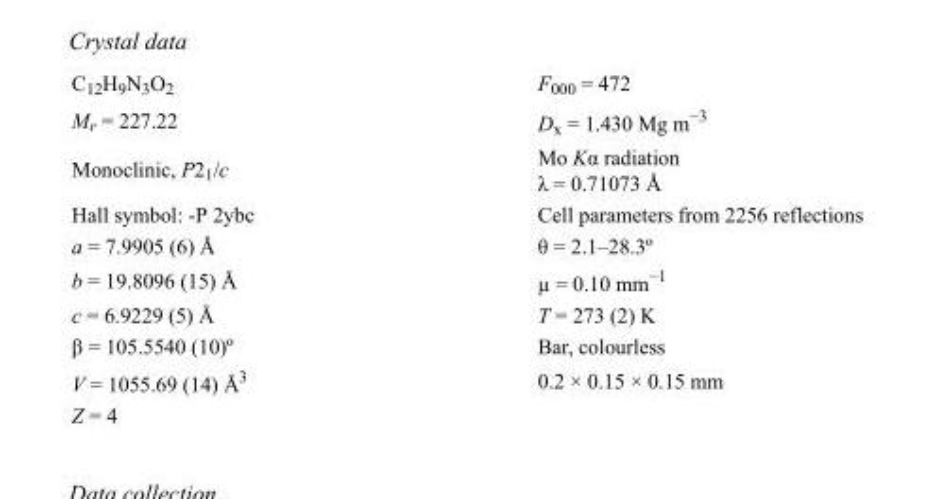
<table><tbody><tr><td>C<sub>12</sub>H<sub>9</sub>N<sub>3</sub>O<sub>2</sub></td><td>F<sub>000</sub> = 472</td></tr><tr><td>M<sub>r</sub> = 227.22</td><td>D<sub>x</sub> = 1.430 Mg m<sup>−3</sup></td></tr><tr><td>Monoclinic, P2<sub>1</sub>/c</td><td>Mo Kα radiation λ = 0.71073 Å</td></tr><tr><td>Hall symbol: -P 2ybc</td><td>Cell parameters from 2256 reflections</td></tr><tr><td>a = 7.9905 (6) Å</td><td>θ = 2.1–28.3º</td></tr><tr><td>b = 19.8096 (15) Å</td><td>µ = 0.10 mm<sup>−1</sup></td></tr><tr><td>c = 6.9229 (5) Å</td><td>T = 273 (2) K</td></tr><tr><td>β = 105.5540 (10)º</td><td>Bar, colourless</td></tr><tr><td>V = 1055.69 (14) Å<sup>3</sup></td><td>0.2 × 0.15 × 0.15 mm</td></tr><tr><td>Z = 4</td><td></td></tr></tbody></table>